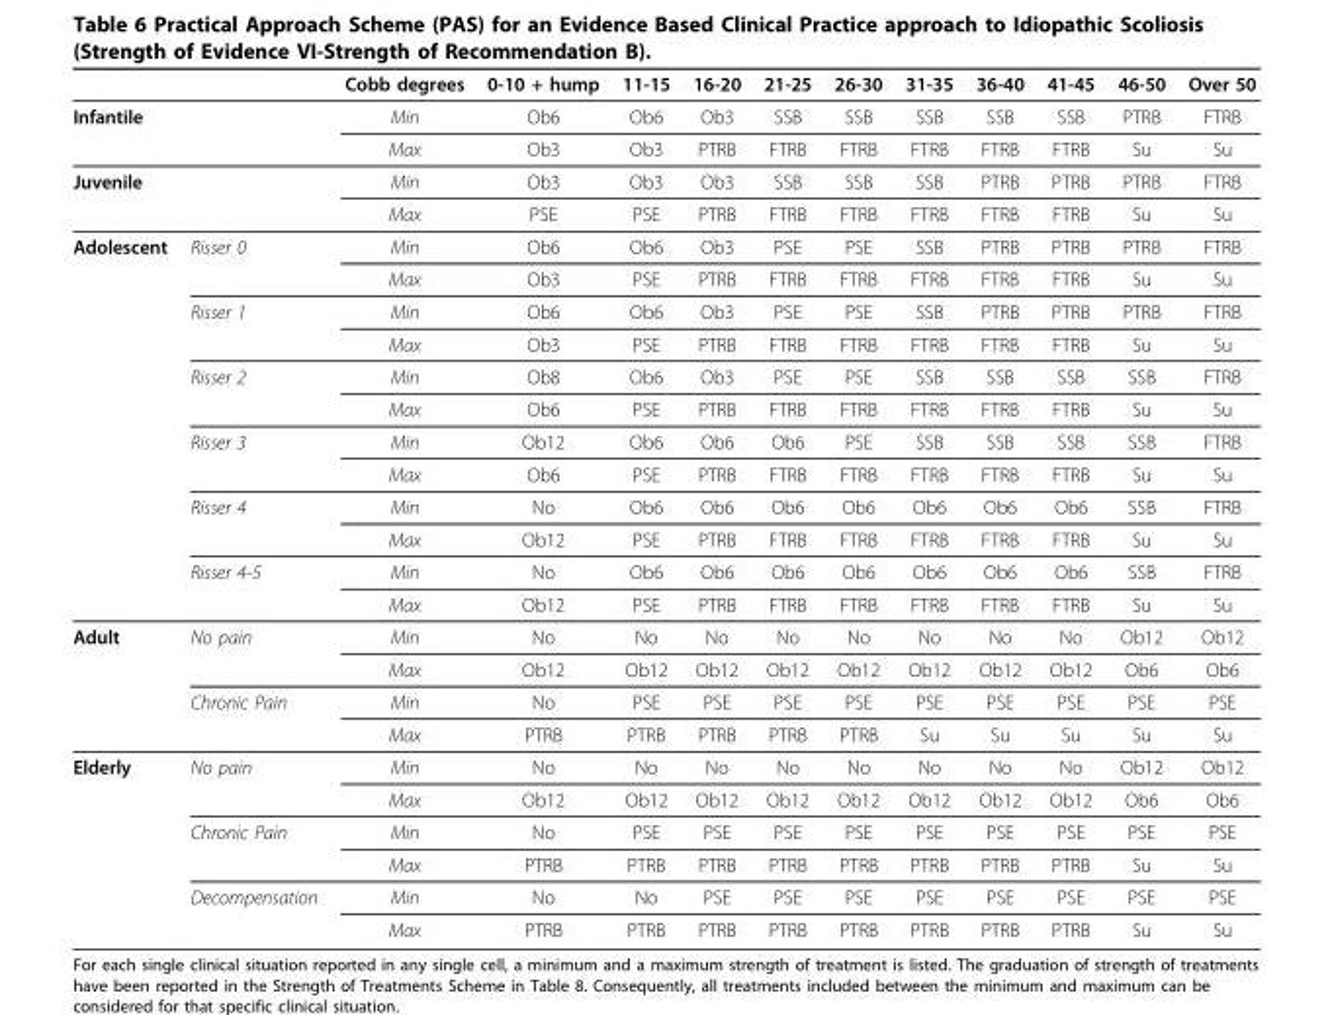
<table><thead><tr><td></td><td></td><td>Cobb degrees</td><td>0-10 + hump</td><td>11-15</td><td>16-20</td><td>21-25</td><td>26-30</td><td>31-35</td><td>36-40</td><td>41-45</td><td>46-50</td><td>Over 50</td></tr></thead><tbody><tr><td rowspan="2">Infantile</td><td></td><td>Min</td><td>Ob6</td><td>Ob6</td><td>Ob3</td><td>SSB</td><td>SSB</td><td>SSB</td><td>SSB</td><td>SSB</td><td>PTRB</td><td>FTRB</td></tr><tr><td></td><td>Max</td><td>Ob3</td><td>Ob3</td><td>PTRB</td><td>FTRB</td><td>FTRB</td><td>FTRB</td><td>FTRB</td><td>FTRB</td><td>Su</td><td>Su</td></tr><tr><td rowspan="2">Juvenile</td><td></td><td>Min</td><td>Ob3</td><td>Ob3</td><td>Ob3</td><td>SSB</td><td>SSB</td><td>SSB</td><td>PTRB</td><td>PTRB</td><td>PTRB</td><td>FTRB</td></tr><tr><td></td><td>Max</td><td>PSE</td><td>PSE</td><td>PTRB</td><td>FTRB</td><td>FTRB</td><td>FTRB</td><td>FTRB</td><td>FTRB</td><td>Su</td><td>Su</td></tr><tr><td rowspan="12">Adolescent</td><td>Risser 0</td><td>Min</td><td>Ob6</td><td>Ob6</td><td>Ob3</td><td>PSE</td><td>PSE</td><td>SSB</td><td>PTRB</td><td>PTRB</td><td>PTRB</td><td>FTRB</td></tr><tr><td></td><td>Max</td><td>Ob3</td><td>PSE</td><td>PTRB</td><td>FTRB</td><td>FTRB</td><td>FTRB</td><td>FTRB</td><td>FTRB</td><td>Su</td><td>Su</td></tr><tr><td>Risser 1</td><td>Min</td><td>Ob6</td><td>Ob6</td><td>Ob3</td><td>PSE</td><td>PSE</td><td>SSB</td><td>PTRB</td><td>PTRB</td><td>PTRB</td><td>FTRB</td></tr><tr><td></td><td>Max</td><td>Ob3</td><td>PSE</td><td>PTRB</td><td>FTRB</td><td>FTRB</td><td>FTRB</td><td>FTRB</td><td>FTRB</td><td>Su</td><td>Su</td></tr><tr><td>Risser 2</td><td>Min</td><td>Ob8</td><td>Ob6</td><td>Ob3</td><td>PSE</td><td>PSE</td><td>SSB</td><td>SSB</td><td>SSB</td><td>SSB</td><td>FTRB</td></tr><tr><td></td><td>Max</td><td>Ob6</td><td>PSE</td><td>PTRB</td><td>FTRB</td><td>FTRB</td><td>FTRB</td><td>FTRB</td><td>FTRB</td><td>Su</td><td>Su</td></tr><tr><td>Risser 3</td><td>Min</td><td>Ob12</td><td>Ob6</td><td>Ob6</td><td>Ob6</td><td>PSE</td><td>SSB</td><td>SSB</td><td>SSB</td><td>SSB</td><td>FTRB</td></tr><tr><td></td><td>Max</td><td>Ob6</td><td>PSE</td><td>PTRB</td><td>FTRB</td><td>FTRB</td><td>FTRB</td><td>FTRB</td><td>FTRB</td><td>Su</td><td>Su</td></tr><tr><td>Risser 4</td><td>Min</td><td>No</td><td>Ob6</td><td>Ob6</td><td>Ob6</td><td>Ob6</td><td>Ob6</td><td>Ob6</td><td>Ob6</td><td>SSB</td><td>FTRB</td></tr><tr><td></td><td>Max</td><td>Ob12</td><td>PSE</td><td>PTRB</td><td>FTRB</td><td>FTRB</td><td>FTRB</td><td>FTRB</td><td>FTRB</td><td>Su</td><td>Su</td></tr><tr><td>Risser 4-5</td><td>Min</td><td>No</td><td>Ob6</td><td>Ob6</td><td>Ob6</td><td>Ob6</td><td>Ob6</td><td>Ob6</td><td>Ob6</td><td>SSB</td><td>FTRB</td></tr><tr><td></td><td>Max</td><td>Ob12</td><td>PSE</td><td>PTRB</td><td>FTRB</td><td>FTRB</td><td>FTRB</td><td>FTRB</td><td>FTRB</td><td>Su</td><td>Su</td></tr><tr><td rowspan="4">Adult</td><td>No pain</td><td>Min</td><td>No</td><td>No</td><td>No</td><td>No</td><td>No</td><td>No</td><td>No</td><td>No</td><td>Ob12</td><td>Ob12</td></tr><tr><td></td><td>Max</td><td>Ob12</td><td>Ob12</td><td>Ob12</td><td>Ob12</td><td>Ob12</td><td>Ob12</td><td>Ob12</td><td>Ob12</td><td>Ob6</td><td>Ob6</td></tr><tr><td>Chronic Pain</td><td>Min</td><td>No</td><td>PSE</td><td>PSE</td><td>PSE</td><td>PSE</td><td>PSE</td><td>PSE</td><td>PSE</td><td>PSE</td><td>PSE</td></tr><tr><td></td><td>Max</td><td>PTRB</td><td>PTRB</td><td>PTRB</td><td>PTRB</td><td>PTRB</td><td>Su</td><td>Su</td><td>Su</td><td>Su</td><td>Su</td></tr><tr><td rowspan="6">Elderly</td><td>No pain</td><td>Min</td><td>No</td><td>No</td><td>No</td><td>No</td><td>No</td><td>No</td><td>No</td><td>No</td><td>Ob12</td><td>Ob12</td></tr><tr><td></td><td>Max</td><td>Ob12</td><td>Ob12</td><td>Ob12</td><td>Ob12</td><td>Ob12</td><td>Ob12</td><td>Ob12</td><td>Ob12</td><td>Ob6</td><td>Ob6</td></tr><tr><td>Chronic Pain</td><td>Min</td><td>No</td><td>PSE</td><td>PSE</td><td>PSE</td><td>PSE</td><td>PSE</td><td>PSE</td><td>PSE</td><td>PSE</td><td>PSE</td></tr><tr><td></td><td>Max</td><td>PTRB</td><td>PTRB</td><td>PTRB</td><td>PTRB</td><td>PTRB</td><td>PTRB</td><td>PTRB</td><td>PTRB</td><td>Su</td><td>Su</td></tr><tr><td>Decompensation</td><td>Min</td><td>No</td><td>No</td><td>PSE</td><td>PSE</td><td>PSE</td><td>PSE</td><td>PSE</td><td>PSE</td><td>PSE</td><td>PSE</td></tr><tr><td></td><td>Max</td><td>PTRB</td><td>PTRB</td><td>PTRB</td><td>PTRB</td><td>PTRB</td><td>PTRB</td><td>PTRB</td><td>PTRB</td><td>Su</td><td>Su</td></tr></tbody></table>